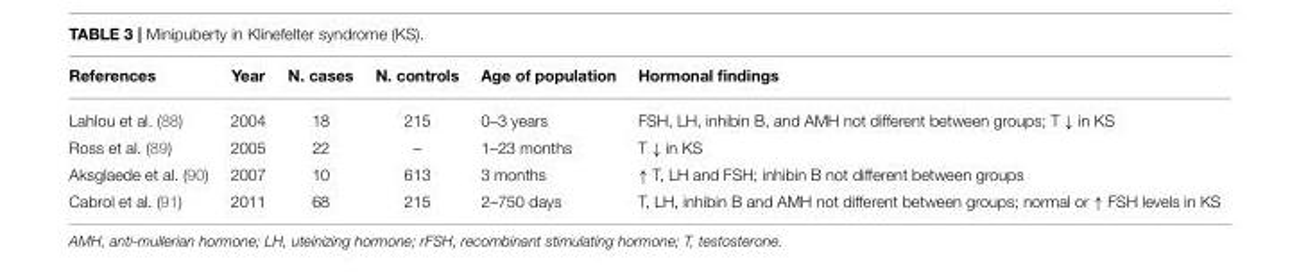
<table><thead><tr><td>References</td><td>Year</td><td>N. cases</td><td>N. controls</td><td>Age of population</td><td>Hormonal findings</td></tr></thead><tbody><tr><td>Lahlou et al. (88)</td><td>2004</td><td>18</td><td>215</td><td>0–3 years</td><td>FSH, LH, inhibin B, and AMH not different between groups; T ↓ in KS</td></tr><tr><td>Ross et al. (89)</td><td>2005</td><td>22</td><td>–</td><td>1–23 months</td><td>T ↓ in KS</td></tr><tr><td>Aksglaede et al. (90)</td><td>2007</td><td>10</td><td>613</td><td>3 months</td><td>↑ T, LH and FSH; inhibin B not different between groups</td></tr><tr><td>Cabrol et al. (91)</td><td>2011</td><td>68</td><td>215</td><td>2–750 days</td><td>T, LH, inhibin B and AMH not different between groups; normal or ↑ FSH levels in KS</td></tr></tbody></table>